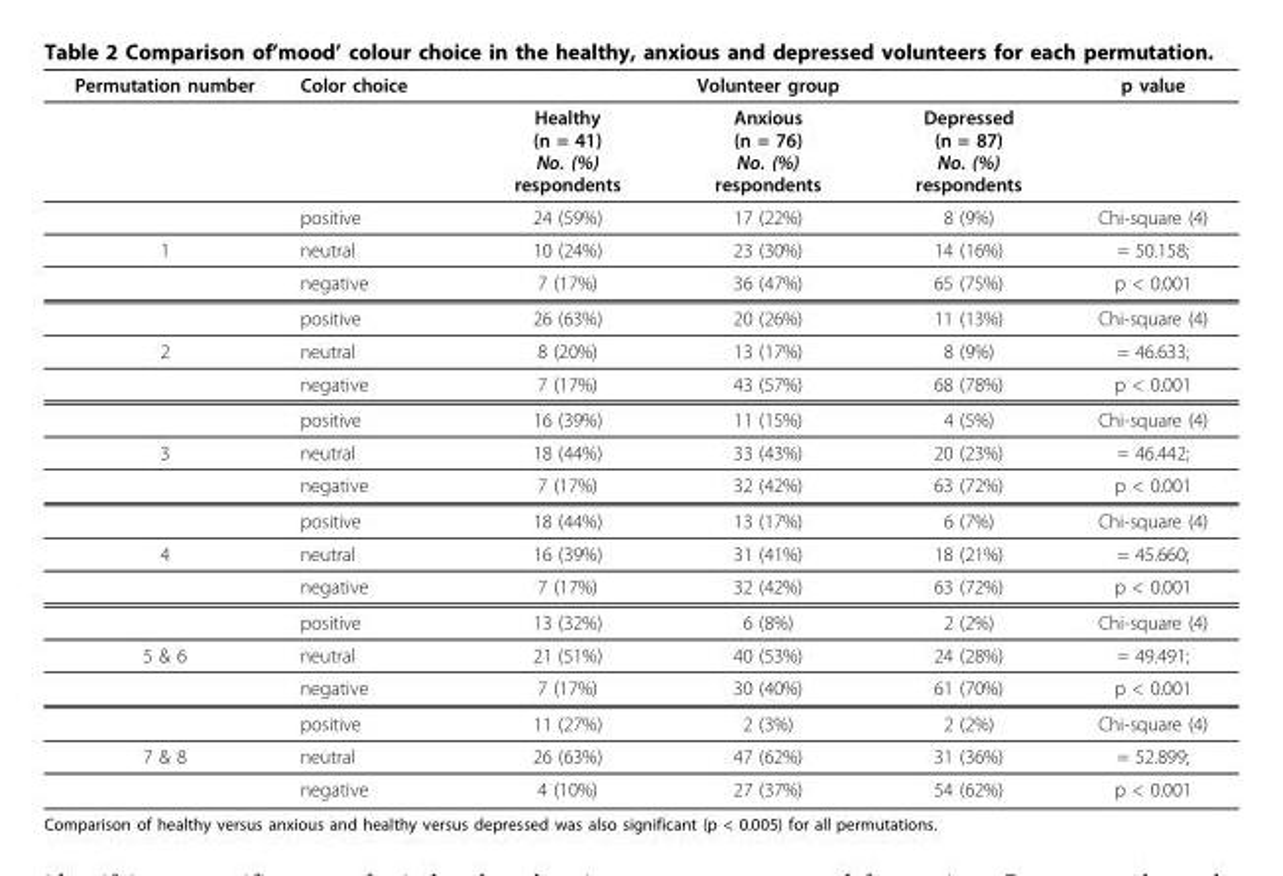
<table><thead><tr><td>Permutation number</td><td>Color choice</td><td></td><td>Volunteer group</td><td></td><td>p value</td></tr></thead><tbody><tr><td></td><td></td><td>Healthy (n = 41) No. (%) respondents</td><td>Anxious (n = 76) No. (%) respondents</td><td>Depressed (n = 87) No. (%) respondents</td><td></td></tr><tr><td></td><td>positive</td><td>24 (59%)</td><td>17 (22%)</td><td>8 (9%)</td><td>Chi-square (4)</td></tr><tr><td rowspan="3">1</td><td>neutral</td><td>10 (24%)</td><td>23 (30%)</td><td>14 (16%)</td><td>= 50.158;</td></tr><tr><td>negative</td><td>7 (17%)</td><td>36 (47%)</td><td>65 (75%)</td><td>p &lt; 0.001</td></tr><tr><td>positive</td><td>26 (63%)</td><td>20 (26%)</td><td>11 (13%)</td><td>Chi-square (4)</td></tr><tr><td rowspan="3">2</td><td>neutral</td><td>8 (20%)</td><td>13 (17%)</td><td>8 (9%)</td><td>= 46.633;</td></tr><tr><td>negative</td><td>7 (17%)</td><td>43 (57%)</td><td>68 (78%)</td><td>p &lt; 0.001</td></tr><tr><td>positive</td><td>16 (39%)</td><td>11 (15%)</td><td>4 (5%)</td><td>Chi-square (4)</td></tr><tr><td rowspan="3">3</td><td>neutral</td><td>18 (44%)</td><td>33 (43%)</td><td>20 (23%)</td><td>= 46.442;</td></tr><tr><td>negative</td><td>7 (17%)</td><td>32 (42%)</td><td>63 (72%)</td><td>p &lt; 0.001</td></tr><tr><td>positive</td><td>18 (44%)</td><td>13 (17%)</td><td>6 (7%)</td><td>Chi-square (4)</td></tr><tr><td rowspan="3">4</td><td>neutral</td><td>16 (39%)</td><td>31 (41%)</td><td>18 (21%)</td><td>= 45.660;</td></tr><tr><td>negative</td><td>7 (17%)</td><td>32 (42%)</td><td>63 (72%)</td><td>p &lt; 0.001</td></tr><tr><td>positive</td><td>13 (32%)</td><td>6 (8%)</td><td>2 (2%)</td><td>Chi-square (4)</td></tr><tr><td rowspan="3">5 &amp; 6</td><td>neutral</td><td>21 (51%)</td><td>40 (53%)</td><td>24 (28%)</td><td>= 49.491;</td></tr><tr><td>negative</td><td>7 (17%)</td><td>30 (40%)</td><td>61 (70%)</td><td>p &lt; 0.001</td></tr><tr><td>positive</td><td>11 (27%)</td><td>2 (3%)</td><td>2 (2%)</td><td>Chi-square (4)</td></tr><tr><td rowspan="2">7 &amp; 8</td><td>neutral</td><td>26 (63%)</td><td>47 (62%)</td><td>31 (36%)</td><td>= 52.899;</td></tr><tr><td>negative</td><td>4 (10%)</td><td>27 (37%)</td><td>54 (62%)</td><td>p &lt; 0.001</td></tr></tbody></table>